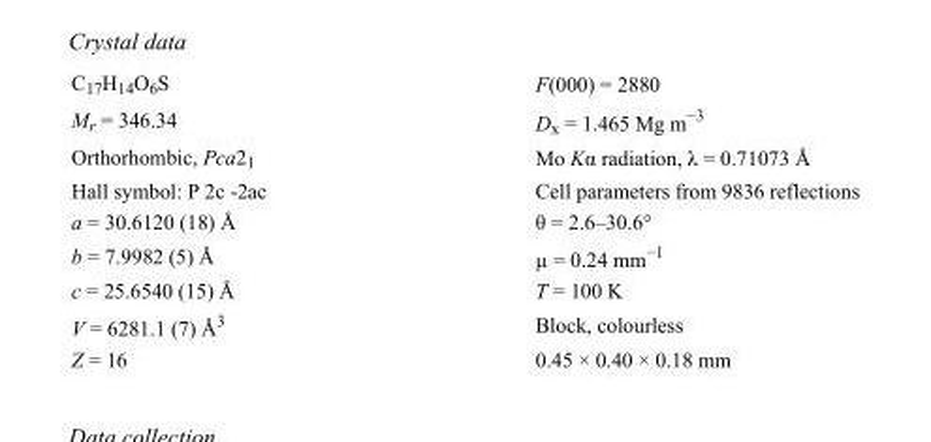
<table><tbody><tr><td>C<sub>17</sub>H<sub>14</sub>O<sub>6</sub>S</td><td>F(000) = 2880</td></tr><tr><td>M<sub>r</sub> = 346.34</td><td>D<sub>x</sub> = 1.465 Mg m<sup>−3</sup></td></tr><tr><td>Orthorhombic, Pca2<sub>1</sub></td><td>Mo Kα radiation, λ = 0.71073 Å</td></tr><tr><td>Hall symbol: P 2c -2ac</td><td>Cell parameters from 9836 reflections</td></tr><tr><td>a = 30.6120 (18) Å</td><td>θ = 2.6–30.6°</td></tr><tr><td>b = 7.9982 (5) Å</td><td>µ = 0.24 mm<sup>−1</sup></td></tr><tr><td>c = 25.6540 (15) Å</td><td>T = 100 K</td></tr><tr><td>V = 6281.1 (7) Å<sup>3</sup></td><td>Block, colourless</td></tr><tr><td>Z = 16</td><td>0.45 × 0.40 × 0.18 mm</td></tr></tbody></table>